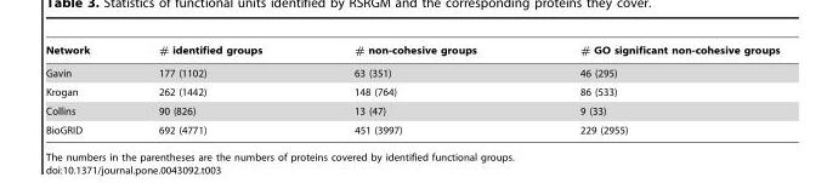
<table><thead><tr><td>Network</td><td># identified groups</td><td># non-cohesive groups</td><td># GO significant non-cohesive groups</td></tr></thead><tbody><tr><td>Gavin</td><td>177 (1102)</td><td>63 (351)</td><td>46 (295)</td></tr><tr><td>Krogan</td><td>262 (1442)</td><td>148 (764)</td><td>86 (533)</td></tr><tr><td>Collins</td><td>90 (826)</td><td>13 (47)</td><td>9 (33)</td></tr><tr><td>BioGRID</td><td>692 (4771)</td><td>451 (3997)</td><td>229 (2955)</td></tr></tbody></table>